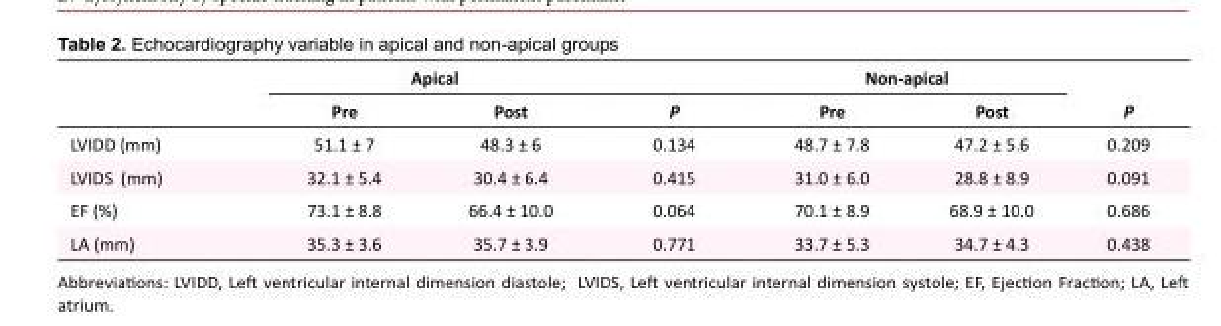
<table><thead><tr><td rowspan="2"></td><td colspan="3">Apical</td><td colspan="2">Non-apical</td><td rowspan="2">P</td></tr><tr><td>Pre</td><td>Post</td><td>P</td><td>Pre</td><td>Post</td></tr></thead><tbody><tr><td>LVIDD (mm)</td><td>51.1 ± 7</td><td>48.3 ± 6</td><td>0.134</td><td>48.7 ± 7.8</td><td>47.2 ± 5.6</td><td>0.209</td></tr><tr><td>LVIDS (mm)</td><td>32.1 ± 5.4</td><td>30.4 ± 6.4</td><td>0.415</td><td>31.0 ± 6.0</td><td>28.8 ± 8.9</td><td>0.091</td></tr><tr><td>EF (%)</td><td>73.1 ± 8.8</td><td>66.4 ± 10.0</td><td>0.064</td><td>70.1 ± 8.9</td><td>68.9 ± 10.0</td><td>0.686</td></tr><tr><td>LA (mm)</td><td>35.3 ± 3.6</td><td>35.7 ± 3.9</td><td>0.771</td><td>33.7 ± 5.3</td><td>34.7 ± 4.3</td><td>0.438</td></tr></tbody></table>